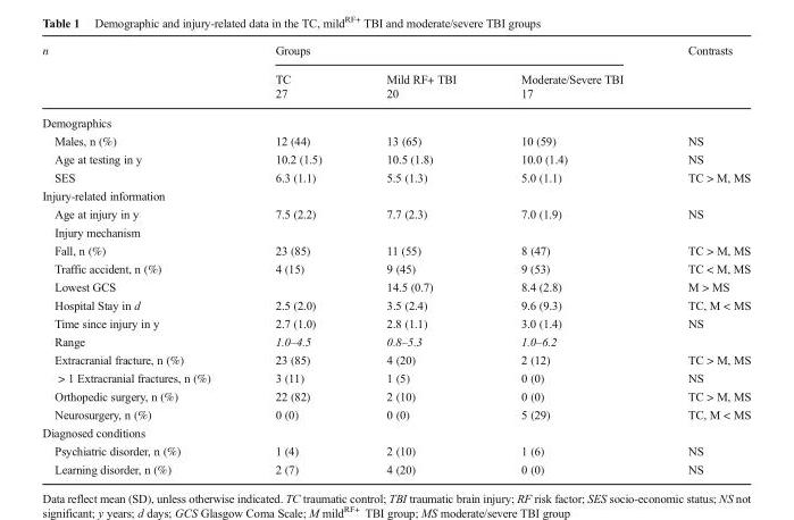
<table><thead><tr><td rowspan="3">n</td><td colspan="3">Groups</td><td rowspan="3">Contrasts</td></tr><tr><td rowspan="2">TC 27</td><td rowspan="2">Mild RF+ TBI 20</td><td rowspan="2">Moderate/Severe TBI 17</td></tr><tr></tr></thead><tbody><tr><td colspan="5">Demographics</td></tr><tr><td>Males, n (%)</td><td>12 (44)</td><td>13 (65)</td><td>10 (59)</td><td>NS</td></tr><tr><td>Age at testing in y</td><td>10.2 (1.5)</td><td>10.5 (1.8)</td><td>10.0 (1.4)</td><td>NS</td></tr><tr><td>SES</td><td>6.3 (1.1)</td><td>5.5 (1.3)</td><td>5.0 (1.1)</td><td>TC &gt; M, MS</td></tr><tr><td colspan="5">Injury-related information</td></tr><tr><td>Age at injury in y</td><td>7.5 (2.2)</td><td>7.7 (2.3)</td><td>7.0 (1.9)</td><td>NS</td></tr><tr><td colspan="5">Injury mechanism</td></tr><tr><td>Fall, n (%)</td><td>23 (85)</td><td>11 (55)</td><td>8 (47)</td><td>TC &gt; M, MS</td></tr><tr><td>Traffic accident, n (%)</td><td>4 (15)</td><td>9 (45)</td><td>9 (53)</td><td>TC &lt; M, MS</td></tr><tr><td>Lowest GCS</td><td></td><td>14.5 (0.7)</td><td>8.4 (2.8)</td><td>M &gt; MS</td></tr><tr><td>Hospital Stay in d</td><td>2.5 (2.0)</td><td>3.5 (2.4)</td><td>9.6 (9.3)</td><td>TC, M &lt; MS</td></tr><tr><td>Time since injury in y</td><td>2.7 (1.0)</td><td>2.8 (1.1)</td><td>3.0 (1.4)</td><td>NS</td></tr><tr><td>Range</td><td>1.0–4.5</td><td>0.8–5.3</td><td>1.0–6.2</td><td></td></tr><tr><td>Extracranial fracture, n (%)</td><td>23 (85)</td><td>4 (20)</td><td>2 (12)</td><td>TC &gt; M, MS</td></tr><tr><td>&gt; 1 Extracranial fractures, n (%)</td><td>3 (11)</td><td>1 (5)</td><td>0 (0)</td><td>NS</td></tr><tr><td>Orthopedic surgery, n (%)</td><td>22 (82)</td><td>2 (10)</td><td>0 (0)</td><td>TC &gt; M, MS</td></tr><tr><td>Neurosurgery, n (%)</td><td>0 (0)</td><td>0 (0)</td><td>5 (29)</td><td>TC, M &lt; MS</td></tr><tr><td colspan="5">Diagnosed conditions</td></tr><tr><td>Psychiatric disorder, n (%)</td><td>1 (4)</td><td>2 (10)</td><td>1 (6)</td><td>NS</td></tr><tr><td>Learning disorder, n (%)</td><td>2 (7)</td><td>4 (20)</td><td>0 (0)</td><td>NS</td></tr></tbody></table>